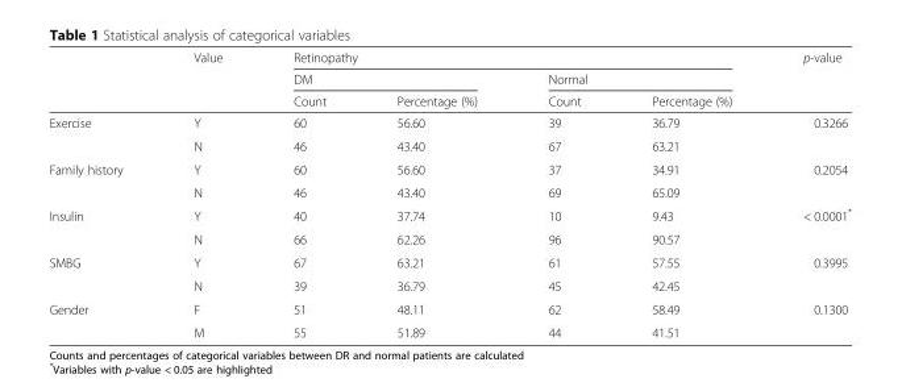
<table><thead><tr><td rowspan="3"></td><td rowspan="3">Value</td><td colspan="4">Retinopathy</td><td rowspan="3">p-value</td></tr><tr><td colspan="2">DM</td><td colspan="2">Normal</td></tr><tr><td>Count</td><td>Percentage (%)</td><td>Count</td><td>Percentage (%)</td></tr></thead><tbody><tr><td rowspan="2">Exercise</td><td>Y</td><td>60</td><td>56.60</td><td>39</td><td>36.79</td><td>0.3266</td></tr><tr><td>N</td><td>46</td><td>43.40</td><td>67</td><td>63.21</td><td></td></tr><tr><td rowspan="2">Family history</td><td>Y</td><td>60</td><td>56.60</td><td>37</td><td>34.91</td><td>0.2054</td></tr><tr><td>N</td><td>46</td><td>43.40</td><td>69</td><td>65.09</td><td></td></tr><tr><td rowspan="2">Insulin</td><td>Y</td><td>40</td><td>37.74</td><td>10</td><td>9.43</td><td>&lt; 0.0001*</td></tr><tr><td>N</td><td>66</td><td>62.26</td><td>96</td><td>90.57</td><td></td></tr><tr><td rowspan="2">SMBG</td><td>Y</td><td>67</td><td>63.21</td><td>61</td><td>57.55</td><td>0.3995</td></tr><tr><td>N</td><td>39</td><td>36.79</td><td>45</td><td>42.45</td><td></td></tr><tr><td rowspan="2">Gender</td><td>F</td><td>51</td><td>48.11</td><td>62</td><td>58.49</td><td>0.1300</td></tr><tr><td>M</td><td>55</td><td>51.89</td><td>44</td><td>41.51</td><td></td></tr></tbody></table>